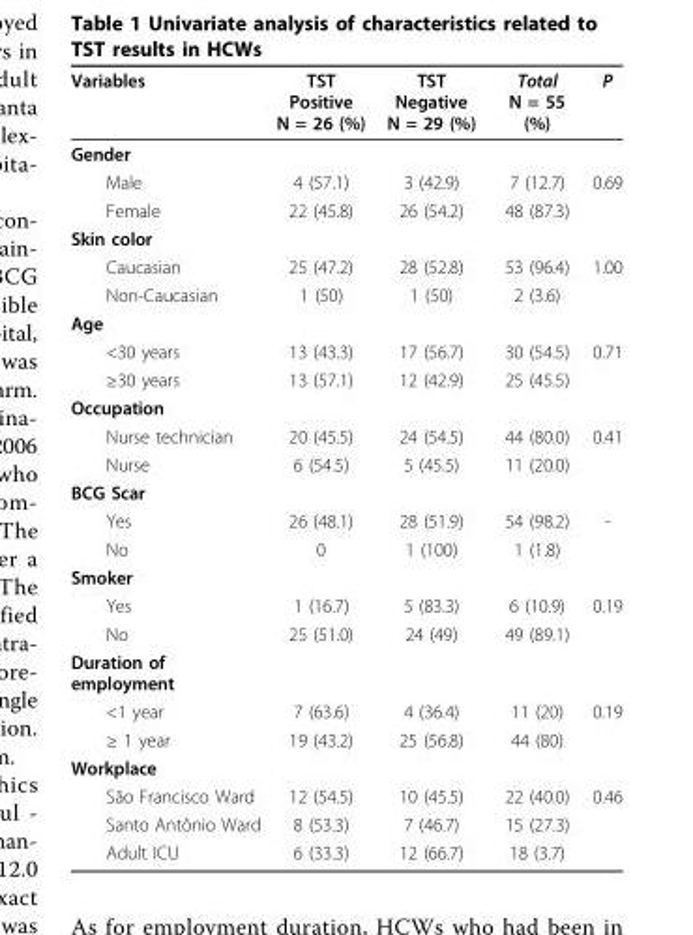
<table><thead><tr><td>Variables</td><td>TST Positive N = 26 (%)</td><td>TST Negative N = 29 (%)</td><td>Total N = 55 (%)</td><td>P</td></tr></thead><tbody><tr><td colspan="5">Gender</td></tr><tr><td>Male</td><td>4 (57.1)</td><td>3 (42.9)</td><td>7 (12.7)</td><td>0.69</td></tr><tr><td>Female</td><td>22 (45.8)</td><td>26 (54.2)</td><td>48 (87.3)</td><td></td></tr><tr><td colspan="5">Skin color</td></tr><tr><td>Caucasian</td><td>25 (47.2)</td><td>28 (52.8)</td><td>53 (96.4)</td><td>1.00</td></tr><tr><td>Non-Caucasian</td><td>1 (50)</td><td>1 (50)</td><td>2 (3.6)</td><td></td></tr><tr><td colspan="5">Age</td></tr><tr><td>&lt;30 years</td><td>13 (43.3)</td><td>17 (56.7)</td><td>30 (54.5)</td><td>0.71</td></tr><tr><td>≥30 years</td><td>13 (57.1)</td><td>12 (42.9)</td><td>25 (45.5)</td><td></td></tr><tr><td colspan="5">Occupation</td></tr><tr><td>Nurse technician</td><td>20 (45.5)</td><td>24 (54.5)</td><td>44 (80.0)</td><td>0.41</td></tr><tr><td>Nurse</td><td>6 (54.5)</td><td>5 (45.5)</td><td>11 (20.0)</td><td></td></tr><tr><td colspan="5">BCG Scar</td></tr><tr><td>Yes</td><td>26 (48.1)</td><td>28 (51.9)</td><td>54 (98.2)</td><td>-</td></tr><tr><td>No</td><td>0</td><td>1 (100)</td><td>1 (1.8)</td><td></td></tr><tr><td colspan="5">Smoker</td></tr><tr><td>Yes</td><td>1 (16.7)</td><td>5 (83.3)</td><td>6 (10.9)</td><td>0.19</td></tr><tr><td>No</td><td>25 (51.0)</td><td>24 (49)</td><td>49 (89.1)</td><td></td></tr><tr><td colspan="5">Duration of employment</td></tr><tr><td>&lt;1 year</td><td>7 (63.6)</td><td>4 (36.4)</td><td>11 (20)</td><td>0.19</td></tr><tr><td>≥ 1 year</td><td>19 (43.2)</td><td>25 (56.8)</td><td>44 (80)</td><td></td></tr><tr><td colspan="5">Workplace</td></tr><tr><td>São Francisco Ward</td><td>12 (54.5)</td><td>10 (45.5)</td><td>22 (40.0)</td><td>0.46</td></tr><tr><td>Santo Antônio Ward</td><td>8 (53.3)</td><td>7 (46.7)</td><td>15 (27.3)</td><td></td></tr><tr><td>Adult ICU</td><td>6 (33.3)</td><td>12 (66.7)</td><td>18 (3.7)</td><td></td></tr></tbody></table>